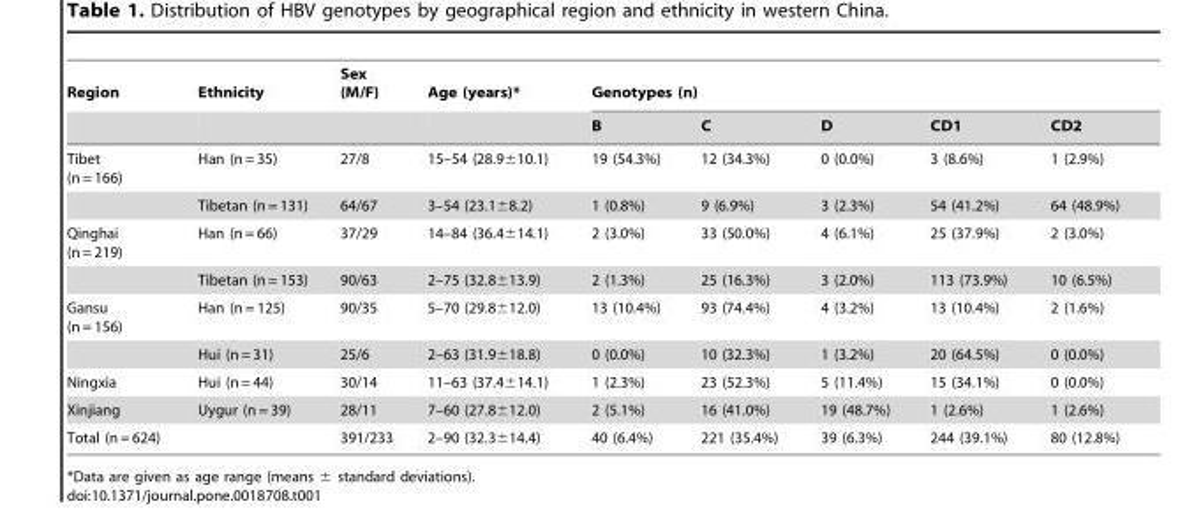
<table><thead><tr><td rowspan="2">Region</td><td rowspan="2">Ethnicity</td><td rowspan="2">Sex (M/F)</td><td rowspan="2">Age (years)*</td><td colspan="5">Genotypes (n)</td></tr><tr><td>B</td><td>C</td><td>D</td><td>CD1</td><td>CD2</td></tr></thead><tbody><tr><td rowspan="2">Tibet (n = 166)</td><td>Han (n = 35)</td><td>27/8</td><td>15–54 (28.9±10.1)</td><td>19 (54.3%)</td><td>12 (34.3%)</td><td>0 (0.0%)</td><td>3 (8.6%)</td><td>1 (2.9%)</td></tr><tr><td>Tibetan (n = 131)</td><td>64/67</td><td>3–54 (23.1±8.2)</td><td>1 (0.8%)</td><td>9 (6.9%)</td><td>3 (2.3%)</td><td>54 (41.2%)</td><td>64 (48.9%)</td></tr><tr><td rowspan="2">Qinghai (n = 219)</td><td>Han (n = 66)</td><td>37/29</td><td>14–84 (36.4±14.1)</td><td>2 (3.0%)</td><td>33 (50.0%)</td><td>4 (6.1%)</td><td>25 (37.9%)</td><td>2 (3.0%)</td></tr><tr><td>Tibetan (n = 153)</td><td>90/63</td><td>2–75 (32.8±13.9)</td><td>2 (1.3%)</td><td>25 (16.3%)</td><td>3 (2.0%)</td><td>113 (73.9%)</td><td>10 (6.5%)</td></tr><tr><td rowspan="2">Gansu (n = 156)</td><td>Han (n = 125)</td><td>90/35</td><td>5–70 (29.8±12.0)</td><td>13 (10.4%)</td><td>93 (74.4%)</td><td>4 (3.2%)</td><td>13 (10.4%)</td><td>2 (1.6%)</td></tr><tr><td>Hui (n = 31)</td><td>25/6</td><td>2–63 (31.9±18.8)</td><td>0 (0.0%)</td><td>10 (32.3%)</td><td>1 (3.2%)</td><td>20 (64.5%)</td><td>0 (0.0%)</td></tr><tr><td>Ningxia</td><td>Hui (n = 44)</td><td>30/14</td><td>11–63 (37.4±14.1)</td><td>1 (2.3%)</td><td>23 (52.3%)</td><td>5 (11.4%)</td><td>15 (34.1%)</td><td>0 (0.0%)</td></tr><tr><td>Xinjiang</td><td>Uygur (n = 39)</td><td>28/11</td><td>7–60 (27.8±12.0)</td><td>2 (5.1%)</td><td>16 (41.0%)</td><td>19 (48.7%)</td><td>1 (2.6%)</td><td>1 (2.6%)</td></tr><tr><td>Total (n = 624)</td><td></td><td>391/233</td><td>2–90 (32.3±14.4)</td><td>40 (6.4%)</td><td>221 (35.4%)</td><td>39 (6.3%)</td><td>244 (39.1%)</td><td>80 (12.8%)</td></tr></tbody></table>